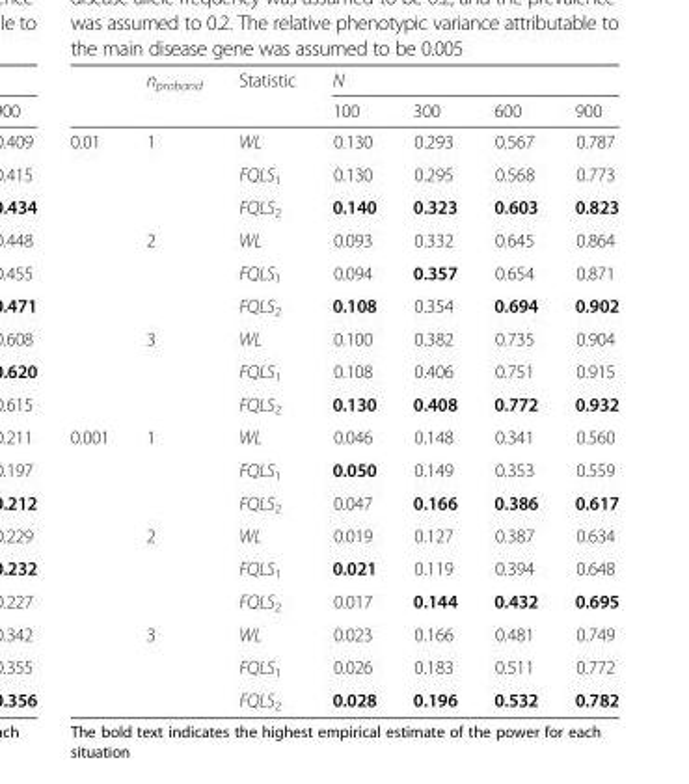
<table><thead><tr><td rowspan="2"></td><td rowspan="2">n<sub>proband</sub></td><td rowspan="2">Statistic</td><td colspan="4">N</td></tr><tr><td>100</td><td>300</td><td>600</td><td>900</td></tr></thead><tbody><tr><td rowspan="9">0.01</td><td rowspan="3">1</td><td>WL</td><td>0.130</td><td>0.293</td><td>0.567</td><td>0.787</td></tr><tr><td>FQLS<sub>1</sub></td><td>0.130</td><td>0.295</td><td>0.568</td><td>0.773</td></tr><tr><td>FQLS<sub>2</sub></td><td>0.140</td><td>0.323</td><td>0.603</td><td>0.823</td></tr><tr><td rowspan="3">2</td><td>WL</td><td>0.093</td><td>0.332</td><td>0.645</td><td>0.864</td></tr><tr><td>FQLS<sub>1</sub></td><td>0.094</td><td>0.357</td><td>0.654</td><td>0.871</td></tr><tr><td>FQLS<sub>2</sub></td><td>0.108</td><td>0.354</td><td>0.694</td><td>0.902</td></tr><tr><td rowspan="3">3</td><td>WL</td><td>0.100</td><td>0.382</td><td>0.735</td><td>0.904</td></tr><tr><td>FQLS<sub>1</sub></td><td>0.108</td><td>0.406</td><td>0.751</td><td>0.915</td></tr><tr><td>FQLS<sub>2</sub></td><td>0.130</td><td>0.408</td><td>0.772</td><td>0.932</td></tr><tr><td rowspan="9">0.001</td><td rowspan="3">1</td><td>WL</td><td>0.046</td><td>0.148</td><td>0.341</td><td>0.560</td></tr><tr><td>FQLS<sub>1</sub></td><td>0.050</td><td>0.149</td><td>0.353</td><td>0.559</td></tr><tr><td>FQLS<sub>2</sub></td><td>0.047</td><td>0.166</td><td>0.386</td><td>0.617</td></tr><tr><td rowspan="3">2</td><td>WL</td><td>0.019</td><td>0.127</td><td>0.387</td><td>0.634</td></tr><tr><td>FQLS<sub>1</sub></td><td>0.021</td><td>0.119</td><td>0.394</td><td>0.648</td></tr><tr><td>FQLS<sub>2</sub></td><td>0.017</td><td>0.144</td><td>0.432</td><td>0.695</td></tr><tr><td rowspan="3">3</td><td>WL</td><td>0.023</td><td>0.166</td><td>0.481</td><td>0.749</td></tr><tr><td>FQLS<sub>1</sub></td><td>0.026</td><td>0.183</td><td>0.511</td><td>0.772</td></tr><tr><td>FQLS<sub>2</sub></td><td>0.028</td><td>0.196</td><td>0.532</td><td>0.782</td></tr></tbody></table>